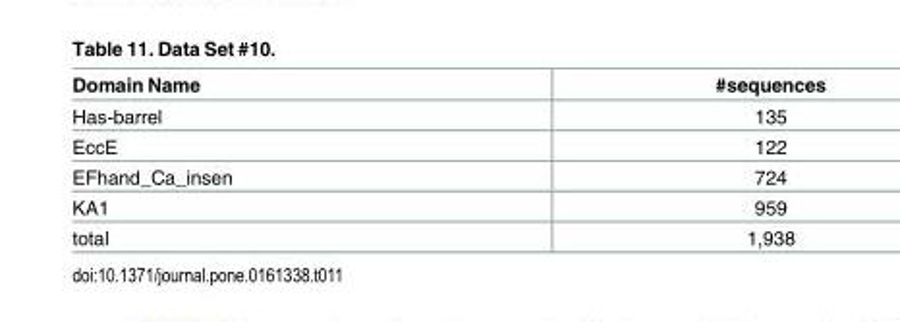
<table><thead><tr><td>Domain Name</td><td>#sequences</td></tr></thead><tbody><tr><td>Has-barrel</td><td>135</td></tr><tr><td>EccE</td><td>122</td></tr><tr><td>EFhand_Ca_insen</td><td>724</td></tr><tr><td>KA1</td><td>959</td></tr><tr><td>total</td><td>1,938</td></tr></tbody></table>